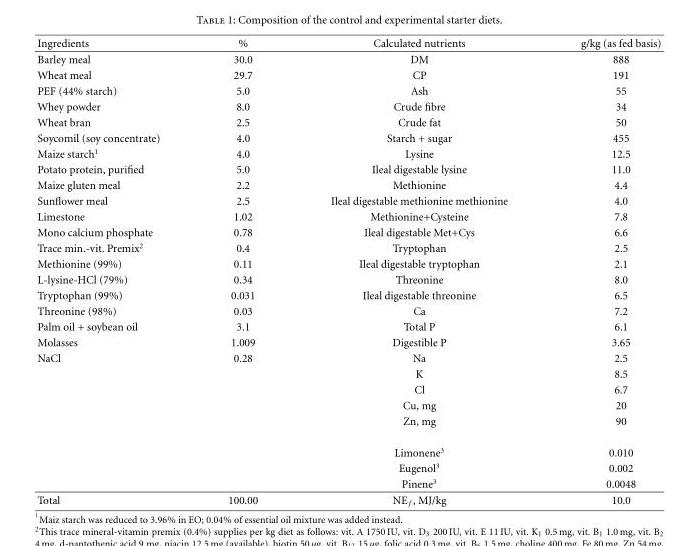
<table><thead><tr><td>Ingredients</td><td>%</td><td>Calculated nutrients</td><td>g/kg (as fed basis)</td></tr></thead><tbody><tr><td>Barley meal</td><td>30.0</td><td>DM</td><td>888</td></tr><tr><td>Wheat meal</td><td>29.7</td><td>CP</td><td>191</td></tr><tr><td>PEF (44% starch)</td><td>5.0</td><td>Ash</td><td>55</td></tr><tr><td>Whey powder</td><td>8.0</td><td>Crude fibre</td><td>34</td></tr><tr><td>Wheat bran</td><td>2.5</td><td>Crude fat</td><td>50</td></tr><tr><td>Soycomil (soy concentrate)</td><td>4.0</td><td>Starch + sugar</td><td>455</td></tr><tr><td>Maize starch<sup>1</sup></td><td>4.0</td><td>Lysine</td><td>12.5</td></tr><tr><td>Potato protein, purified</td><td>5.0</td><td>Ileal digestable lysine</td><td>11.0</td></tr><tr><td>Maize gluten meal</td><td>2.2</td><td>Methionine</td><td>4.4</td></tr><tr><td>Sunflower meal</td><td>2.5</td><td>Ileal digestable methionine methionine</td><td>4.0</td></tr><tr><td>Limestone</td><td>1.02</td><td>Methionine+Cysteine</td><td>7.8</td></tr><tr><td>Mono calcium phosphate</td><td>0.78</td><td>Ileal digestable Met+Cys</td><td>6.6</td></tr><tr><td>Trace min.-vit. Premix<sup>2</sup></td><td>0.4</td><td>Tryptophan</td><td>2.5</td></tr><tr><td>Methionine (99%)</td><td>0.11</td><td>Ileal digestable tryptophan</td><td>2.1</td></tr><tr><td>L-lysine-HCl (79%)</td><td>0.34</td><td>Threonine</td><td>8.0</td></tr><tr><td>Tryptophan (99%)</td><td>0.031</td><td>Ileal digestable threonine</td><td>6.5</td></tr><tr><td>Threonine (98%)</td><td>0.03</td><td>Ca</td><td>7.2</td></tr><tr><td>Palm oil + soybean oil</td><td>3.1</td><td>Total P</td><td>6.1</td></tr><tr><td>Molasses</td><td>1.009</td><td>Digestible P</td><td>3.65</td></tr><tr><td rowspan="8">NaCl</td><td>0.28</td><td>Na</td><td>2.5</td></tr><tr><td></td><td>K</td><td>8.5</td></tr><tr><td></td><td>Cl</td><td>6.7</td></tr><tr><td></td><td>Cu, mg</td><td>20</td></tr><tr><td></td><td>Zn, mg</td><td>90</td></tr><tr><td></td><td>Limonene<sup>3</sup></td><td>0.010</td></tr><tr><td></td><td>Eugenol<sup>3</sup></td><td>0.002</td></tr><tr><td></td><td>Pinene<sup>3</sup></td><td>0.0048</td></tr><tr><td>Total</td><td>100.00</td><td>NE <sub>f</sub> , MJ/kg</td><td>10.0</td></tr></tbody></table>